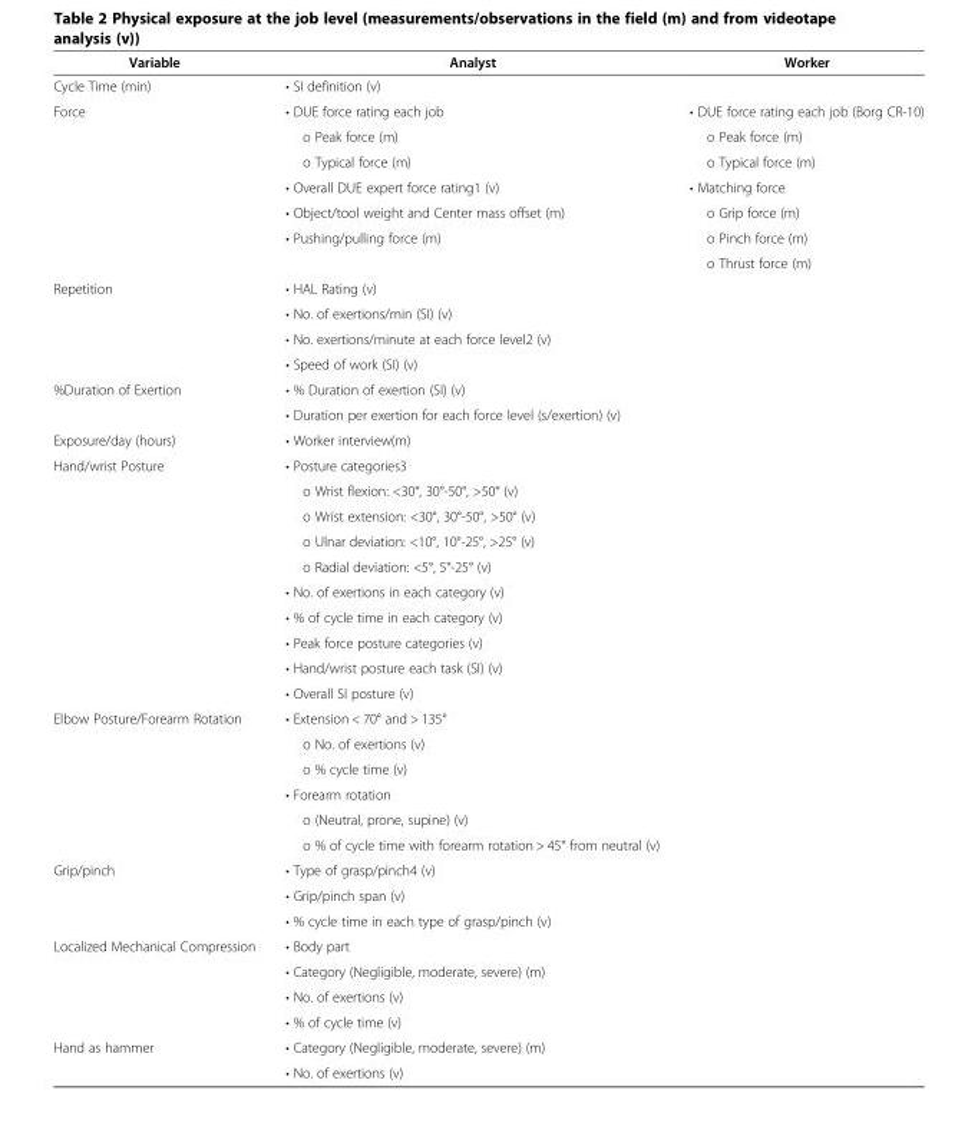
<table><thead><tr><td>Variable</td><td>Analyst</td><td>Worker</td></tr></thead><tbody><tr><td>Cycle Time (min)</td><td>• SI definition (v)</td><td></td></tr><tr><td rowspan="7">Force</td><td>• DUE force rating each job</td><td>• DUE force rating each job (Borg CR-10)</td></tr><tr><td>o Peak force (m)</td><td>o Peak force (m)</td></tr><tr><td>o Typical force (m)</td><td>o Typical force (m)</td></tr><tr><td>• Overall DUE expert force rating1 (v)</td><td>• Matching force</td></tr><tr><td>• Object/tool weight and Center mass offset (m)</td><td>o Grip force (m)</td></tr><tr><td>• Pushing/pulling force (m)</td><td>o Pinch force (m)</td></tr><tr><td></td><td>o Thrust force (m)</td></tr><tr><td rowspan="4">Repetition</td><td>• HAL Rating (v)</td><td></td></tr><tr><td>• No. of exertions/min (SI) (v)</td><td></td></tr><tr><td>• No. exertions/minute at each force level2 (v)</td><td></td></tr><tr><td>• Speed of work (SI) (v)</td><td></td></tr><tr><td rowspan="2">%Duration of Exertion</td><td>• % Duration of exertion (SI) (v)</td><td></td></tr><tr><td>• Duration per exertion for each force level (s/exertion) (v)</td><td></td></tr><tr><td>Exposure/day (hours)</td><td>• Worker interview(m)</td><td></td></tr><tr><td rowspan="10">Hand/wrist Posture</td><td>• Posture categories3</td><td></td></tr><tr><td>o Wrist flexion: &lt;30°, 30°-50°, &gt;50° (v)</td><td></td></tr><tr><td>o Wrist extension: &lt;30°, 30°-50°, &gt;50° (v)</td><td></td></tr><tr><td>o Ulnar deviation: &lt;10°, 10°-25°, &gt;25° (v)</td><td></td></tr><tr><td>o Radial deviation: &lt;5°, 5°-25° (v)</td><td></td></tr><tr><td>• No. of exertions in each category (v)</td><td></td></tr><tr><td>• % of cycle time in each category (v)</td><td></td></tr><tr><td>• Peak force posture categories (v)</td><td></td></tr><tr><td>• Hand/wrist posture each task (SI) (v)</td><td></td></tr><tr><td>• Overall SI posture (v)</td><td></td></tr><tr><td rowspan="6">Elbow Posture/Forearm Rotation</td><td>• Extension &lt; 70° and &gt; 135°</td><td></td></tr><tr><td>o No. of exertions (v)</td><td></td></tr><tr><td>o % cycle time (v)</td><td></td></tr><tr><td>• Forearm rotation</td><td></td></tr><tr><td>o (Neutral, prone, supine) (v)</td><td></td></tr><tr><td>o % of cycle time with forearm rotation &gt; 45° from neutral (v)</td><td></td></tr><tr><td rowspan="3">Grip/pinch</td><td>• Type of grasp/pinch4 (v)</td><td></td></tr><tr><td>• Grip/pinch span (v)</td><td></td></tr><tr><td>• % cycle time in each type of grasp/pinch (v)</td><td></td></tr><tr><td rowspan="4">Localized Mechanical Compression</td><td>• Body part</td><td></td></tr><tr><td>• Category (Negligible, moderate, severe) (m)</td><td></td></tr><tr><td>• No. of exertions (v)</td><td></td></tr><tr><td>• % of cycle time (v)</td><td></td></tr><tr><td rowspan="2">Hand as hammer</td><td>• Category (Negligible, moderate, severe) (m)</td><td></td></tr><tr><td>• No. of exertions (v)</td><td></td></tr></tbody></table>